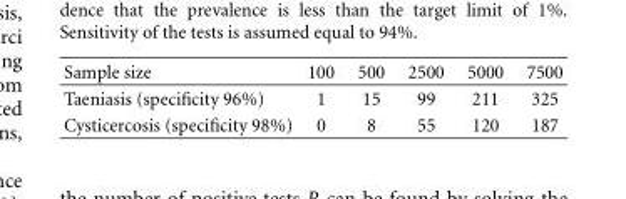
<table><thead><tr><td>Sample size</td><td>100</td><td>500</td><td>2500</td><td>5000</td><td>7500</td></tr></thead><tbody><tr><td>Taeniasis (specificity 96%)</td><td>1</td><td>15</td><td>99</td><td>211</td><td>325</td></tr><tr><td>Cysticercosis (specificity 98%)</td><td>0</td><td>8</td><td>55</td><td>120</td><td>187</td></tr></tbody></table>